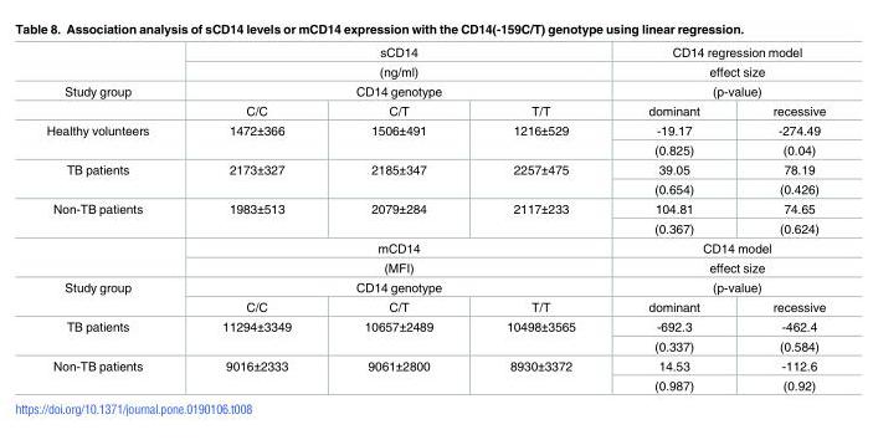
<table><thead><tr><td rowspan="4">Study group</td><td rowspan="3" colspan="3">sCD14 (ng/ml) CD14 genotype</td><td rowspan="3" colspan="2">CD14 regression model effect size (p-value)</td></tr><tr></tr><tr></tr><tr><td>C/C</td><td>C/T</td><td>T/T</td><td>dominant</td><td>recessive</td></tr></thead><tbody><tr><td rowspan="2">Healthy volunteers</td><td rowspan="2">1472±366</td><td rowspan="2">1506±491</td><td rowspan="2">1216±529</td><td>-19.17</td><td>-274.49</td></tr><tr><td>(0.825)</td><td>(0.04)</td></tr><tr><td rowspan="2">TB patients</td><td rowspan="2">2173±327</td><td rowspan="2">2185±347</td><td rowspan="2">2257±475</td><td>39.05</td><td>78.19</td></tr><tr><td>(0.654)</td><td>(0.426)</td></tr><tr><td rowspan="4">Non-TB patients</td><td rowspan="2">1983±513</td><td rowspan="2">2079±284</td><td rowspan="2">2117±233</td><td>104.81</td><td>74.65</td></tr><tr><td>(0.367)</td><td>(0.624)</td></tr><tr><td colspan="3">mCD14</td><td colspan="2">CD14 model</td></tr><tr><td colspan="3">(MFI)</td><td colspan="2">effect size</td></tr><tr><td rowspan="2">Study group</td><td colspan="3">CD14 genotype</td><td colspan="2">(p-value)</td></tr><tr><td>C/C</td><td>C/T</td><td>T/T</td><td>dominant</td><td>recessive</td></tr><tr><td rowspan="2">TB patients</td><td rowspan="2">11294±3349</td><td rowspan="2">10657±2489</td><td rowspan="2">10498±3565</td><td>-692.3</td><td>-462.4</td></tr><tr><td>(0.337)</td><td>(0.584)</td></tr><tr><td rowspan="2">Non-TB patients</td><td rowspan="2">9016±2333</td><td rowspan="2">9061±2800</td><td rowspan="2">8930±3372</td><td>14.53</td><td>-112.6</td></tr><tr><td>(0.987)</td><td>(0.92)</td></tr></tbody></table>